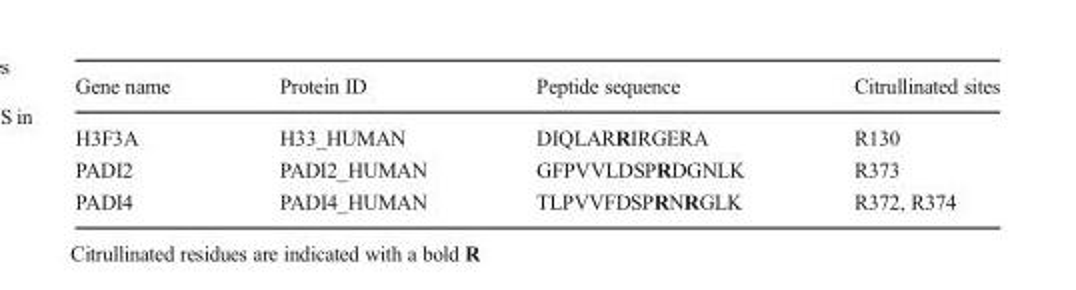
<table><thead><tr><td>Gene name</td><td>Protein ID</td><td>Peptide sequence</td><td>Citrullinated sites</td></tr></thead><tbody><tr><td>H3F3A</td><td>H33_HUMAN</td><td>DIQLARRIRGERA</td><td>R130</td></tr><tr><td>PADI2</td><td>PADI2_HUMAN</td><td>GFPVVLDSPRDGNLK</td><td>R373</td></tr><tr><td>PADI4</td><td>PADI4_HUMAN</td><td>TLPVVFDSPRNRGLK</td><td>R372, R374</td></tr></tbody></table>